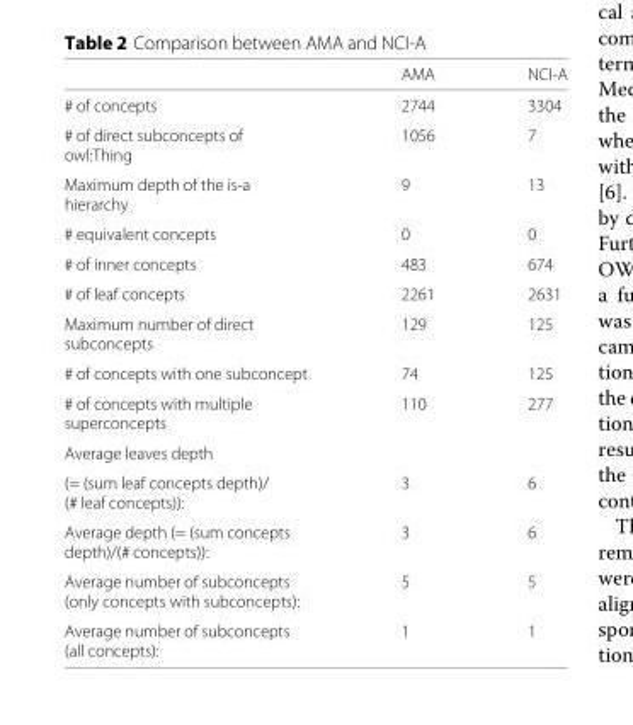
<table><thead><tr><td></td><td>AMA</td><td>NCI-A</td></tr></thead><tbody><tr><td># of concepts</td><td>2744</td><td>3304</td></tr><tr><td># of direct subconcepts of owl:Thing</td><td>1056</td><td>7</td></tr><tr><td>Maximum depth of the is-a hierarchy</td><td>9</td><td>13</td></tr><tr><td># equivalent concepts</td><td>0</td><td>0</td></tr><tr><td># of inner concepts</td><td>483</td><td>674</td></tr><tr><td># of leaf concepts</td><td>2261</td><td>2631</td></tr><tr><td>Maximum number of direct subconcepts</td><td>129</td><td>125</td></tr><tr><td># of concepts with one subconcept</td><td>74</td><td>125</td></tr><tr><td># of concepts with multiple superconcepts</td><td>110</td><td>277</td></tr><tr><td colspan="3">Average leaves depth</td></tr><tr><td>(= (sum leaf concepts depth)/ (# leaf concepts)):</td><td>3</td><td>6</td></tr><tr><td>Average depth (= (sum concepts depth)/(# concepts)):</td><td>3</td><td>6</td></tr><tr><td>Average number of subconcepts (only concepts with subconcepts):</td><td>5</td><td>5</td></tr><tr><td>Average number of subconcepts (all concepts):</td><td>1</td><td>1</td></tr></tbody></table>